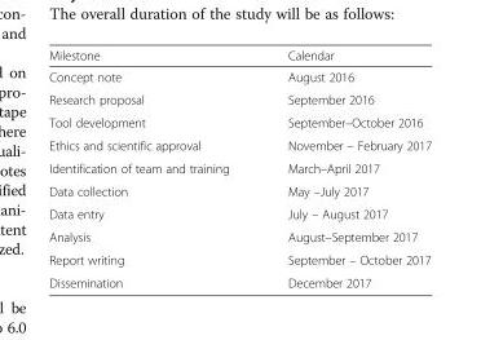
<table><tbody><tr><td>Milestone</td><td>Calendar</td></tr><tr><td>Concept note</td><td>August 2016</td></tr><tr><td>Research proposal</td><td>September 2016</td></tr><tr><td>Tool development</td><td>September–October 2016</td></tr><tr><td>Ethics and scientific approval</td><td>November – February 2017</td></tr><tr><td>Identification of team and training</td><td>March–April 2017</td></tr><tr><td>Data collection</td><td>May –July 2017</td></tr><tr><td>Data entry</td><td>July – August 2017</td></tr><tr><td>Analysis</td><td>August–September 2017</td></tr><tr><td>Report writing</td><td>September – October 2017</td></tr><tr><td>Dissemination</td><td>December 2017</td></tr></tbody></table>